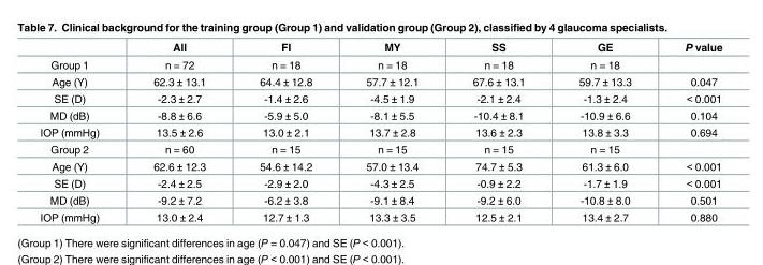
<table><thead><tr><td></td><td>All</td><td>FI</td><td>MY</td><td>SS</td><td>GE</td><td>P value</td></tr></thead><tbody><tr><td>Group 1</td><td>n = 72</td><td>n = 18</td><td>n = 18</td><td>n = 18</td><td>n = 18</td><td></td></tr><tr><td>Age (Y)</td><td>62.3 ± 13.1</td><td>64.4 ± 12.8</td><td>57.7 ± 12.1</td><td>67.6 ± 13.1</td><td>59.7 ± 13.3</td><td>0.047</td></tr><tr><td>SE (D)</td><td>-2.3 ± 2.7</td><td>-1.4 ± 2.6</td><td>-4.5 ± 1.9</td><td>-2.1 ± 2.4</td><td>-1.3 ± 2.4</td><td>&lt; 0.001</td></tr><tr><td>MD (dB)</td><td>-8.8 ± 6.6</td><td>-5.9 ± 5.0</td><td>-8.1 ± 5.5</td><td>-10.4 ± 8.1</td><td>-10.9 ± 6.6</td><td>0.104</td></tr><tr><td>IOP (mmHg)</td><td>13.5 ± 2.6</td><td>13.0 ± 2.1</td><td>13.7 ± 2.8</td><td>13.6 ± 2.3</td><td>13.8 ± 3.3</td><td>0.694</td></tr><tr><td>Group 2</td><td>n = 60</td><td>n = 15</td><td>n = 15</td><td>n = 15</td><td>n = 15</td><td></td></tr><tr><td>Age (Y)</td><td>62.6 ± 12.3</td><td>54.6 ± 14.2</td><td>57.0 ± 13.4</td><td>74.7 ± 5.3</td><td>61.3 ± 6.0</td><td>&lt; 0.001</td></tr><tr><td>SE (D)</td><td>-2.4 ± 2.5</td><td>-2.9 ± 2.0</td><td>-4.3 ± 2.5</td><td>-0.9 ± 2.2</td><td>-1.7 ± 1.9</td><td>&lt; 0.001</td></tr><tr><td>MD (dB)</td><td>-9.2 ± 7.2</td><td>-6.2 ± 3.8</td><td>-9.1 ± 8.4</td><td>-9.2 ± 6.0</td><td>-10.8 ± 8.0</td><td>0.501</td></tr><tr><td>IOP (mmHg)</td><td>13.0 ± 2.4</td><td>12.7 ± 1.3</td><td>13.3 ± 3.5</td><td>12.5 ± 2.1</td><td>13.4 ± 2.7</td><td>0.880</td></tr></tbody></table>